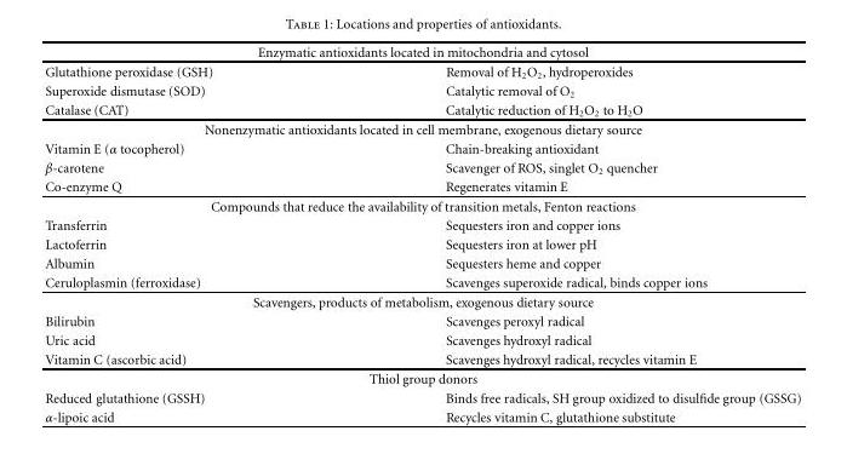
<table><thead><tr><td colspan="2">Enzymatic antioxidants located in mitochondria and cytosol</td></tr><tr><td>Glutathione peroxidase (GSH)</td><td>Removal of H<sub>2</sub>O<sub>2</sub>, hydroperoxides</td></tr></thead><tbody><tr><td>Superoxide dismutase (SOD)</td><td>Catalytic removal of O<sub>2</sub></td></tr><tr><td>Catalase (CAT)</td><td>Catalytic reduction of H<sub>2</sub>O<sub>2</sub> to H<sub>2</sub>O</td></tr><tr><td colspan="2">Nonenzymatic antioxidants located in cell membrane, exogenous dietary source</td></tr><tr><td>Vitamin E (α tocopherol)</td><td>Chain-breaking antioxidant</td></tr><tr><td>β-carotene</td><td>Scavenger of ROS, singlet O<sub>2</sub> quencher</td></tr><tr><td>Co-enzyme Q</td><td>Regenerates vitamin E</td></tr><tr><td colspan="2">Compounds that reduce the availability of transition metals, Fenton reactions</td></tr><tr><td>Transferrin</td><td>Sequesters iron and copper ions</td></tr><tr><td>Lactoferrin</td><td>Sequesters iron at lower pH</td></tr><tr><td>Albumin</td><td>Sequesters heme and copper</td></tr><tr><td>Ceruloplasmin (ferroxidase)</td><td>Scavenges superoxide radical, binds copper ions</td></tr><tr><td colspan="2">Scavengers, products of metabolism, exogenous dietary source</td></tr><tr><td>Bilirubin</td><td>Scavenges peroxyl radical</td></tr><tr><td>Uric acid</td><td>Scavenges hydroxyl radical</td></tr><tr><td>Vitamin C (ascorbic acid)</td><td>Scavenges hydroxyl radical, recycles vitamin E</td></tr><tr><td colspan="2">Thiol group donors</td></tr><tr><td>Reduced glutathione (GSSH)</td><td>Binds free radicals, SH group oxidized to disulfide group (GSSG)</td></tr><tr><td>α-lipoic acid</td><td>Recycles vitamin C, glutathione substitute</td></tr></tbody></table>